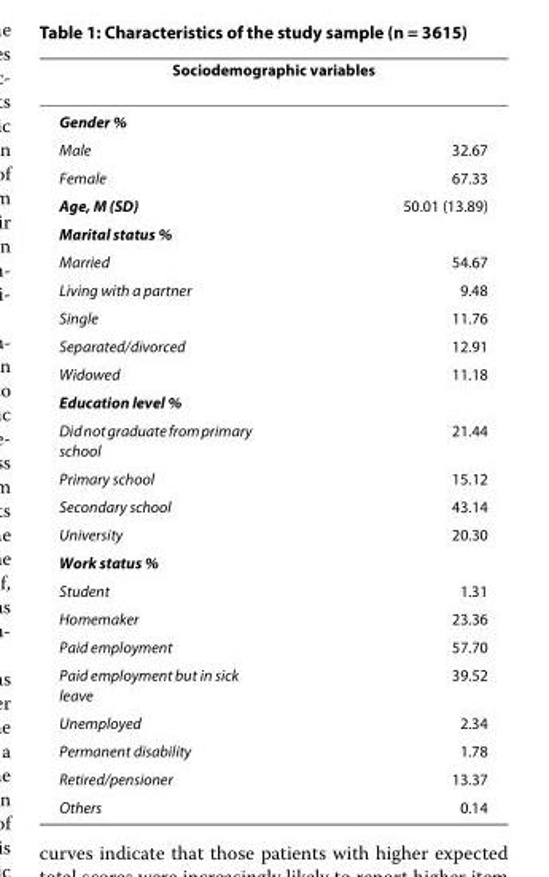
<table><thead><tr><td rowspan="2" colspan="2">Sociodemographic variables Gender %</td></tr><tr></tr><tr><td>Male</td><td>32.67</td></tr></thead><tbody><tr><td>Female</td><td>67.33</td></tr><tr><td>Age, M (SD)</td><td>50.01 (13.89)</td></tr><tr><td colspan="2">Marital status %</td></tr><tr><td>Married</td><td>54.67</td></tr><tr><td>Living with a partner</td><td>9.48</td></tr><tr><td>Single</td><td>11.76</td></tr><tr><td>Separated/divorced</td><td>12.91</td></tr><tr><td>Widowed</td><td>11.18</td></tr><tr><td colspan="2">Education level %</td></tr><tr><td>Did not graduate from primary school</td><td>21.44</td></tr><tr><td>Primary school</td><td>15.12</td></tr><tr><td>Secondary school</td><td>43.14</td></tr><tr><td>University</td><td>20.30</td></tr><tr><td colspan="2">Work status %</td></tr><tr><td>Student</td><td>1.31</td></tr><tr><td>Homemaker</td><td>23.36</td></tr><tr><td>Paid employment</td><td>57.70</td></tr><tr><td>Paid employment but in sick leave</td><td>39.52</td></tr><tr><td>Unemployed</td><td>2.34</td></tr><tr><td>Permanent disability</td><td>1.78</td></tr><tr><td>Retired/pensioner</td><td>13.37</td></tr><tr><td>Others</td><td>0.14</td></tr></tbody></table>